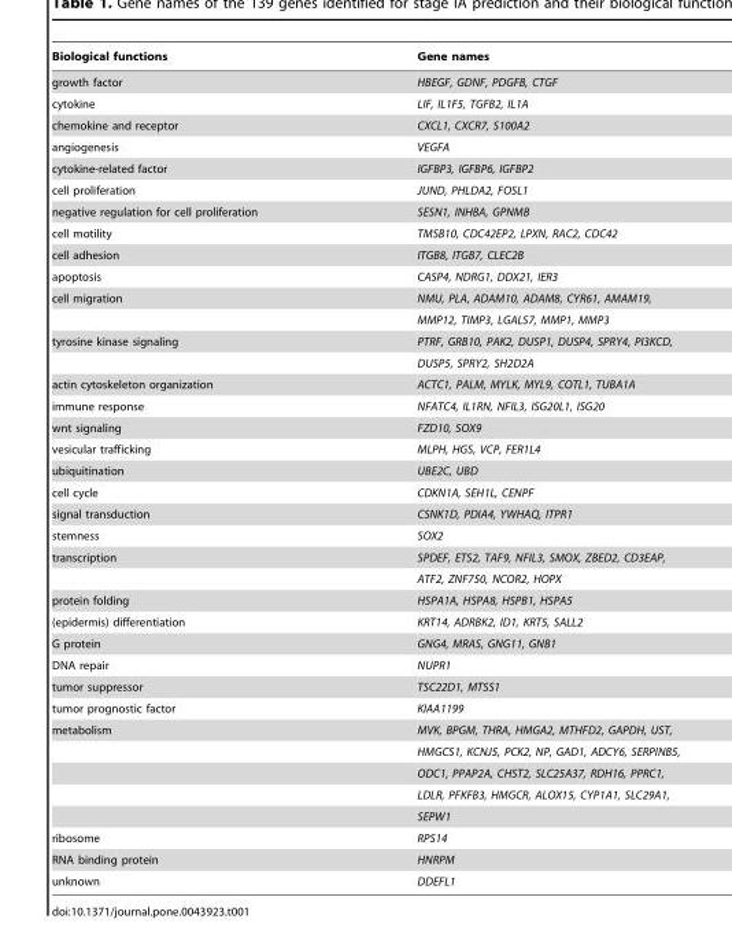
<table><thead><tr><td>Biological functions</td><td>Gene names</td></tr></thead><tbody><tr><td>growth factor</td><td>HBEGF, GDNF, PDGFB, CTGF</td></tr><tr><td>cytokine</td><td>LIF, IL1F5, TGFB2, IL1A</td></tr><tr><td>chemokine and receptor</td><td>CXCL1, CXCR7, S100A2</td></tr><tr><td>angiogenesis</td><td>VEGFA</td></tr><tr><td>cytokine-related factor</td><td>IGFBP3, IGFBP6, IGFBP2</td></tr><tr><td>cell proliferation</td><td>JUND, PHLDA2, FOSL1</td></tr><tr><td>negative regulation for cell proliferation</td><td>SESN1, INHBA, GPNMB</td></tr><tr><td>cell motility</td><td>TMSB10, CDC42EP2, LPXN, RAC2, CDC42</td></tr><tr><td>cell adhesion</td><td>ITGB8, ITGB7, CLEC2B</td></tr><tr><td>apoptosis</td><td>CASP4, NDRG1, DDX21, IER3</td></tr><tr><td rowspan="2">cell migration</td><td>NMU, PLA, ADAM10, ADAM8, CYR61, AMAM19,</td></tr><tr><td>MMP12, TIMP3, LGALS7, MMP1, MMP3</td></tr><tr><td rowspan="2">tyrosine kinase signaling</td><td>PTRF, GRB10, PAK2, DUSP1, DUSP4, SPRY4, PI3KCD,</td></tr><tr><td>DUSP5, SPRY2, SH2D2A</td></tr><tr><td>actin cytoskeleton organization</td><td>ACTC1, PALM, MYLK, MYL9, COTL1, TUBA1A</td></tr><tr><td>immune response</td><td>NFATC4, IL1RN, NFIL3, ISG20L1, ISG20</td></tr><tr><td>wnt signaling</td><td>FZD10, SOX9</td></tr><tr><td>vesicular trafficking</td><td>MLPH, HGS, VCP, FER1L4</td></tr><tr><td>ubiquitination</td><td>UBE2C, UBD</td></tr><tr><td>cell cycle</td><td>CDKN1A, SEH1L, CENPF</td></tr><tr><td>signal transduction</td><td>CSNK1D, PDIA4, YWHAQ, ITPR1</td></tr><tr><td>stemness</td><td>SOX2</td></tr><tr><td rowspan="2">transcription</td><td>SPDEF, ETS2, TAF9, NFIL3, SMOX, ZBED2, CD3EAP,</td></tr><tr><td>ATF2, ZNF750, NCOR2, HOPX</td></tr><tr><td>protein folding</td><td>HSPA1A, HSPA8, HSPB1, HSPA5</td></tr><tr><td>(epidermis) differentiation</td><td>KRT14, ADRBK2, ID1, KRT5, SALL2</td></tr><tr><td>G protein</td><td>GNG4, MRAS, GNG11, GNB1</td></tr><tr><td>DNA repair</td><td>NUPR1</td></tr><tr><td>tumor suppressor</td><td>TSC22D1, MTSS1</td></tr><tr><td>tumor prognostic factor</td><td>KIAA1199</td></tr><tr><td rowspan="5">metabolism</td><td>MVK, BPGM, THRA, HMGA2, MTHFD2, GAPDH, UST,</td></tr><tr><td>HMGCS1, KCNJ5, PCK2, NP, GAD1, ADCY6, SERPINB5,</td></tr><tr><td>ODC1, PPAP2A, CHST2, SLC25A37, RDH16, PPRC1,</td></tr><tr><td>LDLR, PFKFB3, HMGCR, ALOX15, CYP1A1, SLC29A1,</td></tr><tr><td>SEPW1</td></tr><tr><td>ribosome</td><td>RPS14</td></tr><tr><td>RNA binding protein</td><td>HNRPM</td></tr><tr><td>unknown</td><td>DDEFL1</td></tr></tbody></table>